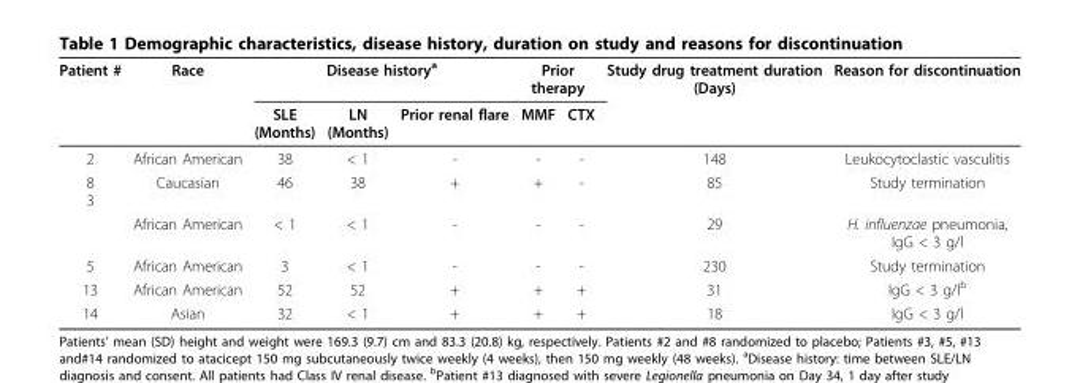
<table><thead><tr><td rowspan="2">Patient #</td><td rowspan="2">Race</td><td colspan="3">Disease history<sup>a</sup></td><td colspan="2">Prior therapy</td><td rowspan="2">Study drug treatment duration (Days)</td><td rowspan="2">Reason for discontinuation</td></tr><tr><td>SLE (Months)</td><td>LN (Months)</td><td>Prior renal flare</td><td>MMF</td><td>CTX</td></tr></thead><tbody><tr><td>2</td><td>African American</td><td>38</td><td>&lt; 1</td><td>-</td><td>-</td><td>-</td><td>148</td><td>Leukocytoclastic vasculitis</td></tr><tr><td rowspan="2">8 3</td><td>Caucasian</td><td>46</td><td>38</td><td>+</td><td>+</td><td>-</td><td>85</td><td>Study termination</td></tr><tr><td>African American</td><td>&lt; 1</td><td>&lt; 1</td><td>-</td><td>-</td><td>-</td><td>29</td><td>H. influenzae pneumonia, IgG &lt; 3 g/l</td></tr><tr><td>5</td><td>African American</td><td>3</td><td>&lt; 1</td><td>-</td><td>-</td><td>-</td><td>230</td><td>Study termination</td></tr><tr><td>13</td><td>African American</td><td>52</td><td>52</td><td>+</td><td>+</td><td>+</td><td>31</td><td>IgG &lt; 3 g/l<sup>b</sup></td></tr><tr><td>14</td><td>Asian</td><td>32</td><td>&lt; 1</td><td>+</td><td>+</td><td>+</td><td>18</td><td>IgG &lt; 3 g/l</td></tr></tbody></table>